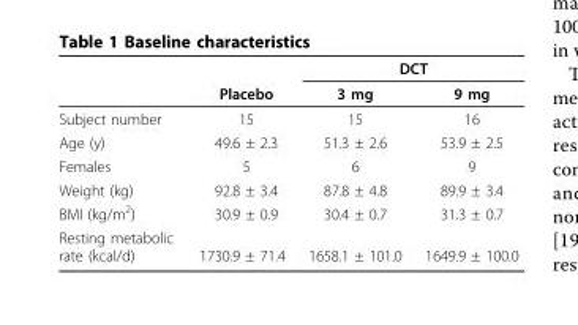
<table><thead><tr><td rowspan="2"></td><td rowspan="2">Placebo</td><td colspan="2">DCT</td></tr><tr><td>3 mg</td><td>9 mg</td></tr></thead><tbody><tr><td>Subject number</td><td>15</td><td>15</td><td>16</td></tr><tr><td>Age (y)</td><td>49.6 ± 2.3</td><td>51.3 ± 2.6</td><td>53.9 ± 2.5</td></tr><tr><td>Females</td><td>5</td><td>6</td><td>9</td></tr><tr><td>Weight (kg)</td><td>92.8 ± 3.4</td><td>87.8 ± 4.8</td><td>89.9 ± 3.4</td></tr><tr><td>BMI (kg/m<sup>2</sup>)</td><td>30.9 ± 0.9</td><td>30.4 ± 0.7</td><td>31.3 ± 0.7</td></tr><tr><td>Resting metabolic rate (kcal/d)</td><td>1730.9 ± 71.4</td><td>1658.1 ± 101.0</td><td>1649.9 ± 100.0</td></tr></tbody></table>